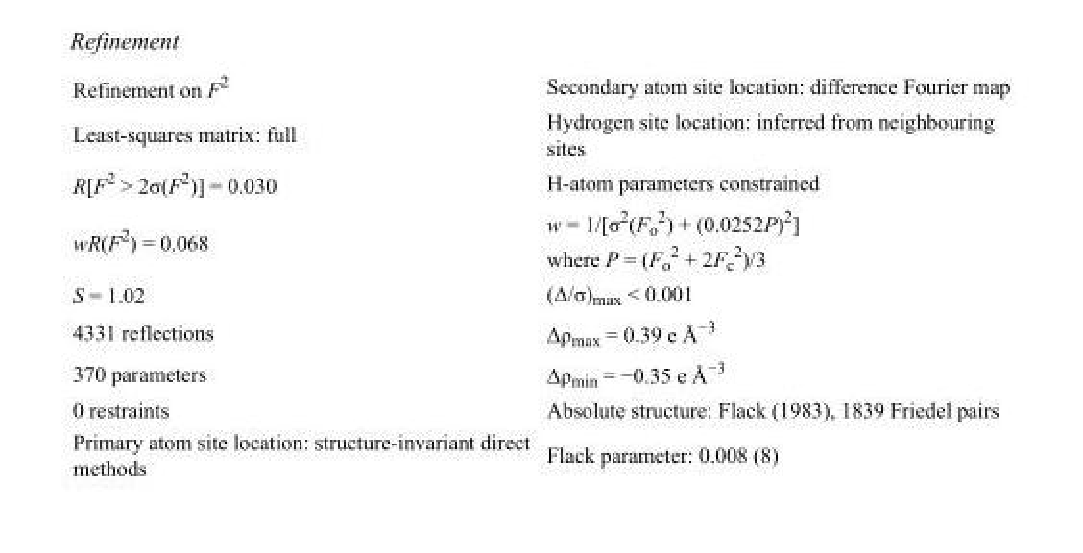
<table><tbody><tr><td>Refinement on F<sup>2</sup></td><td>Secondary atom site location: difference Fourier map</td></tr><tr><td>Least-squares matrix: full</td><td>Hydrogen site location: inferred from neighbouring sites</td></tr><tr><td>R[F<sup>2</sup> &gt; 2σ(F<sup>2</sup>)] = 0.030</td><td>H-atom parameters constrained</td></tr><tr><td>wR(F<sup>2</sup>) = 0.068</td><td>w = 1/[σ<sup>2</sup>(F<sub>o</sub> <sup>2</sup>) + (0.0252P)<sup>2</sup>] where P = (F<sub>o</sub> <sup>2</sup> + 2F<sub>c</sub> <sup>2</sup>)/3</td></tr><tr><td>S = 1.02</td><td>(Δ/σ)<sub>max</sub> &lt; 0.001</td></tr><tr><td>4331 reflections</td><td>Δρ<sub>max</sub> = 0.39 e Å<sup>−3</sup></td></tr><tr><td>370 parameters</td><td>Δρ<sub>min</sub> = −0.35 e Å<sup>−3</sup></td></tr><tr><td>0 restraints</td><td>Absolute structure: Flack (1983), 1839 Friedel pairs</td></tr><tr><td>Primary atom site location: structure-invariant direct methods</td><td>Flack parameter: 0.008 (8)</td></tr></tbody></table>